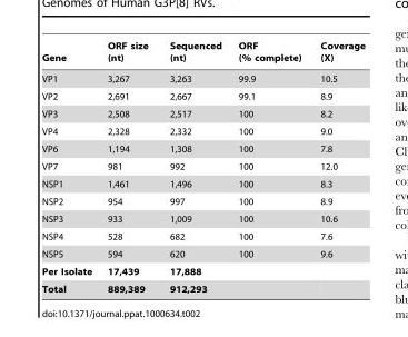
<table><thead><tr><td>Gene</td><td>ORF size (nt)</td><td>Sequenced (nt)</td><td>ORF (% complete)</td><td>Coverage (X)</td></tr></thead><tbody><tr><td>VP1</td><td>3,267</td><td>3,263</td><td>99.9</td><td>10.5</td></tr><tr><td>VP2</td><td>2,691</td><td>2,667</td><td>99.1</td><td>8.9</td></tr><tr><td>VP3</td><td>2,508</td><td>2,517</td><td>100</td><td>8.2</td></tr><tr><td>VP4</td><td>2,328</td><td>2,332</td><td>100</td><td>9.0</td></tr><tr><td>VP6</td><td>1,194</td><td>1,308</td><td>100</td><td>7.8</td></tr><tr><td>VP7</td><td>981</td><td>992</td><td>100</td><td>12.0</td></tr><tr><td>NSP1</td><td>1,461</td><td>1,496</td><td>100</td><td>8.3</td></tr><tr><td>NSP2</td><td>954</td><td>997</td><td>100</td><td>8.9</td></tr><tr><td>NSP3</td><td>933</td><td>1,009</td><td>100</td><td>10.6</td></tr><tr><td>NSP4</td><td>528</td><td>682</td><td>100</td><td>7.6</td></tr><tr><td>NSP5</td><td>594</td><td>620</td><td>100</td><td>9.6</td></tr><tr><td>Per Isolate</td><td>17,439</td><td>17,888</td><td></td><td></td></tr><tr><td>Total</td><td>889,389</td><td>912,293</td><td></td><td></td></tr></tbody></table>